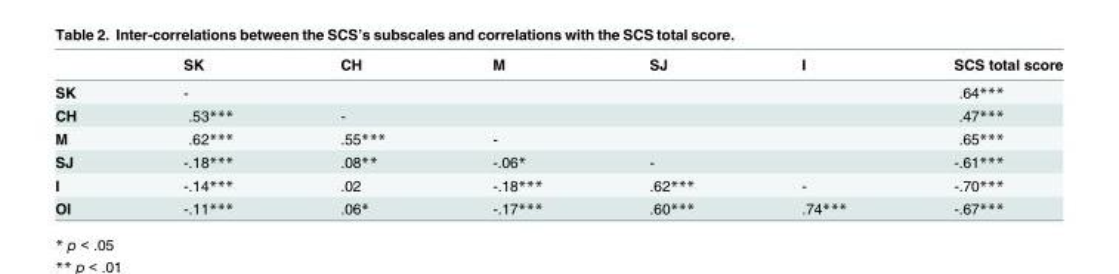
<table><thead><tr><td></td><td>SK</td><td>CH</td><td>M</td><td>SJ</td><td>I</td><td>SCS total score</td></tr></thead><tbody><tr><td>SK</td><td>-</td><td></td><td></td><td></td><td></td><td>.64***</td></tr><tr><td>CH</td><td>.53***</td><td>-</td><td></td><td></td><td></td><td>.47***</td></tr><tr><td>M</td><td>.62***</td><td>.55***</td><td>-</td><td></td><td></td><td>.65***</td></tr><tr><td>SJ</td><td>-.18***</td><td>.08**</td><td>-.06*</td><td>-</td><td></td><td>-.61***</td></tr><tr><td>I</td><td>-.14***</td><td>.02</td><td>-.18***</td><td>.62***</td><td>-</td><td>-.70***</td></tr><tr><td>OI</td><td>-.11***</td><td>.06*</td><td>-.17***</td><td>.60***</td><td>.74***</td><td>-.67***</td></tr></tbody></table>